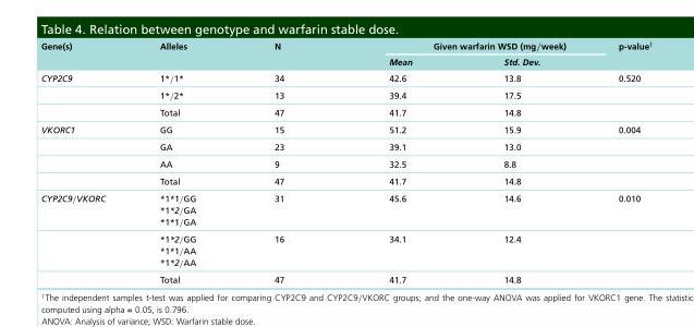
<table><thead><tr><td rowspan="2">Gene(s)</td><td rowspan="2">Alleles</td><td rowspan="2">N</td><td colspan="2">Given warfarin WSD (mg/week)</td><td rowspan="2">p-value<sup>†</sup></td></tr><tr><td>Mean</td><td>Std. Dev.</td></tr></thead><tbody><tr><td rowspan="3">CYP2C9</td><td>1*/1*</td><td>34</td><td>42.6</td><td>13.8</td><td>0.520</td></tr><tr><td>1*/2*</td><td>13</td><td>39.4</td><td>17.5</td><td></td></tr><tr><td>Total</td><td>47</td><td>41.7</td><td>14.8</td><td></td></tr><tr><td rowspan="4">VKORC1</td><td>GG</td><td>15</td><td>51.2</td><td>15.9</td><td>0.004</td></tr><tr><td>GA</td><td>23</td><td>39.1</td><td>13.0</td><td></td></tr><tr><td>AA</td><td>9</td><td>32.5</td><td>8.8</td><td></td></tr><tr><td>Total</td><td>47</td><td>41.7</td><td>14.8</td><td></td></tr><tr><td rowspan="3">CYP2C9/VKORC</td><td>*1*1/GG *1*2/GA *1*1/GA</td><td>31</td><td>45.6</td><td>14.6</td><td>0.010</td></tr><tr><td>*1*2/GG *1*1/AA *1*2/AA</td><td>16</td><td>34.1</td><td>12.4</td><td></td></tr><tr><td>Total</td><td>47</td><td>41.7</td><td>14.8</td><td></td></tr></tbody></table>